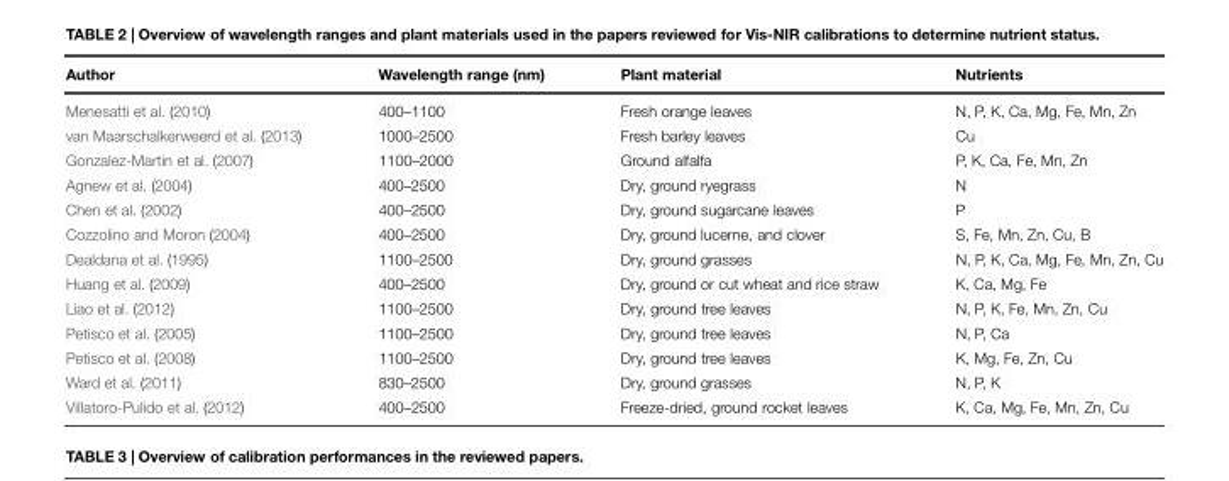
<table><thead><tr><td>Author</td><td>Wavelength range (nm)</td><td>Plant material</td><td>Nutrients</td></tr></thead><tbody><tr><td>Menesatti et al. (2010)</td><td>400–1100</td><td>Fresh orange leaves</td><td>N, P, K, Ca, Mg, Fe, Mn, Zn</td></tr><tr><td>van Maarschalkerweerd et al. (2013)</td><td>1000–2500</td><td>Fresh barley leaves</td><td>Cu</td></tr><tr><td>Gonzalez-Martin et al. (2007)</td><td>1100–2000</td><td>Ground alfalfa</td><td>P, K, Ca, Fe, Mn, Zn</td></tr><tr><td>Agnew et al. (2004)</td><td>400–2500</td><td>Dry, ground ryegrass</td><td>N</td></tr><tr><td>Chen et al. (2002)</td><td>400–2500</td><td>Dry, ground sugarcane leaves</td><td>P</td></tr><tr><td>Cozzolino and Moron (2004)</td><td>400–2500</td><td>Dry, ground lucerne, and clover</td><td>S, Fe, Mn, Zn, Cu, B</td></tr><tr><td>Dealdana et al. (1995)</td><td>1100–2500</td><td>Dry, ground grasses</td><td>N, P, K, Ca, Mg, Fe, Mn, Zn, Cu</td></tr><tr><td>Huang et al. (2009)</td><td>400–2500</td><td>Dry, ground or cut wheat and rice straw</td><td>K, Ca, Mg, Fe</td></tr><tr><td>Liao et al. (2012)</td><td>1100–2500</td><td>Dry, ground tree leaves</td><td>N, P, K, Fe, Mn, Zn, Cu</td></tr><tr><td>Petisco et al. (2005)</td><td>1100–2500</td><td>Dry, ground tree leaves</td><td>N, P, Ca</td></tr><tr><td>Petisco et al. (2008)</td><td>1100–2500</td><td>Dry, ground tree leaves</td><td>K, Mg, Fe, Zn, Cu</td></tr><tr><td>Ward et al. (2011)</td><td>830–2500</td><td>Dry, ground grasses</td><td>N, P, K</td></tr><tr><td>Villatoro-Pulido et al. (2012)</td><td>400–2500</td><td>Freeze-dried, ground rocket leaves</td><td>K, Ca, Mg, Fe, Mn, Zn, Cu</td></tr></tbody></table>